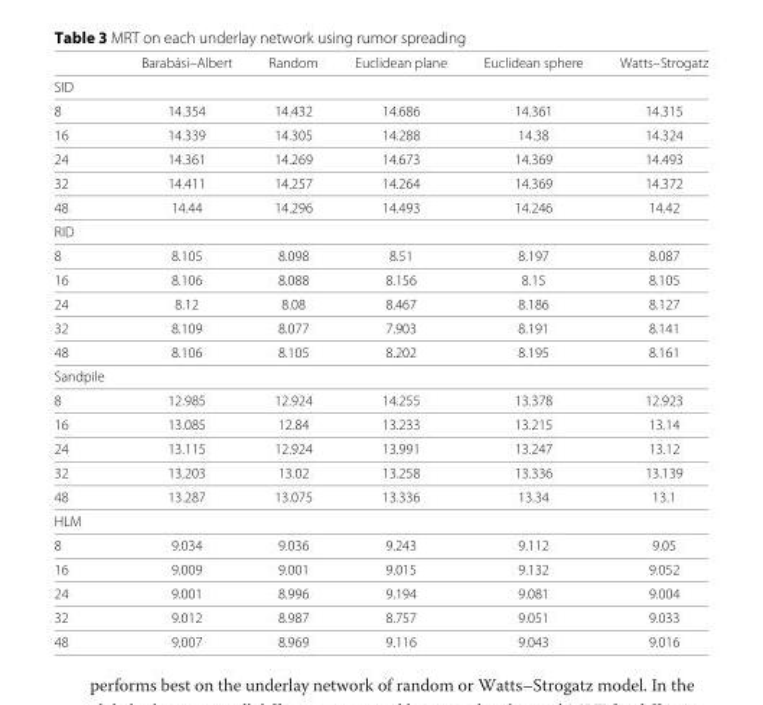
<table><thead><tr><td></td><td>Barabási–Albert</td><td>Random</td><td>Euclidean plane</td><td>Euclidean sphere</td><td>Watts–Strogatz</td></tr></thead><tbody><tr><td colspan="6">SID</td></tr><tr><td>8</td><td>14.354</td><td>14.432</td><td>14.686</td><td>14.361</td><td>14.315</td></tr><tr><td>16</td><td>14.339</td><td>14.305</td><td>14.288</td><td>14.38</td><td>14.324</td></tr><tr><td>24</td><td>14.361</td><td>14.269</td><td>14.673</td><td>14.369</td><td>14.493</td></tr><tr><td>32</td><td>14.411</td><td>14.257</td><td>14.264</td><td>14.369</td><td>14.372</td></tr><tr><td>48</td><td>14.44</td><td>14.296</td><td>14.493</td><td>14.246</td><td>14.42</td></tr><tr><td colspan="6">RID</td></tr><tr><td>8</td><td>8.105</td><td>8.098</td><td>8.51</td><td>8.197</td><td>8.087</td></tr><tr><td>16</td><td>8.106</td><td>8.088</td><td>8.156</td><td>8.15</td><td>8.105</td></tr><tr><td>24</td><td>8.12</td><td>8.08</td><td>8.467</td><td>8.186</td><td>8.127</td></tr><tr><td>32</td><td>8.109</td><td>8.077</td><td>7.903</td><td>8.191</td><td>8.141</td></tr><tr><td>48</td><td>8.106</td><td>8.105</td><td>8.202</td><td>8.195</td><td>8.161</td></tr><tr><td colspan="6">Sandpile</td></tr><tr><td>8</td><td>12.985</td><td>12.924</td><td>14.255</td><td>13.378</td><td>12.923</td></tr><tr><td>16</td><td>13.085</td><td>12.84</td><td>13.233</td><td>13.215</td><td>13.14</td></tr><tr><td>24</td><td>13.115</td><td>12.924</td><td>13.991</td><td>13.247</td><td>13.12</td></tr><tr><td>32</td><td>13.203</td><td>13.02</td><td>13.258</td><td>13.336</td><td>13.139</td></tr><tr><td>48</td><td>13.287</td><td>13.075</td><td>13.336</td><td>13.34</td><td>13.1</td></tr><tr><td colspan="6">HLM</td></tr><tr><td>8</td><td>9.034</td><td>9.036</td><td>9.243</td><td>9.112</td><td>9.05</td></tr><tr><td>16</td><td>9.009</td><td>9.001</td><td>9.015</td><td>9.132</td><td>9.052</td></tr><tr><td>24</td><td>9.001</td><td>8.996</td><td>9.194</td><td>9.081</td><td>9.004</td></tr><tr><td>32</td><td>9.012</td><td>8.987</td><td>8.757</td><td>9.051</td><td>9.033</td></tr><tr><td>48</td><td>9.007</td><td>8.969</td><td>9.116</td><td>9.043</td><td>9.016</td></tr></tbody></table>